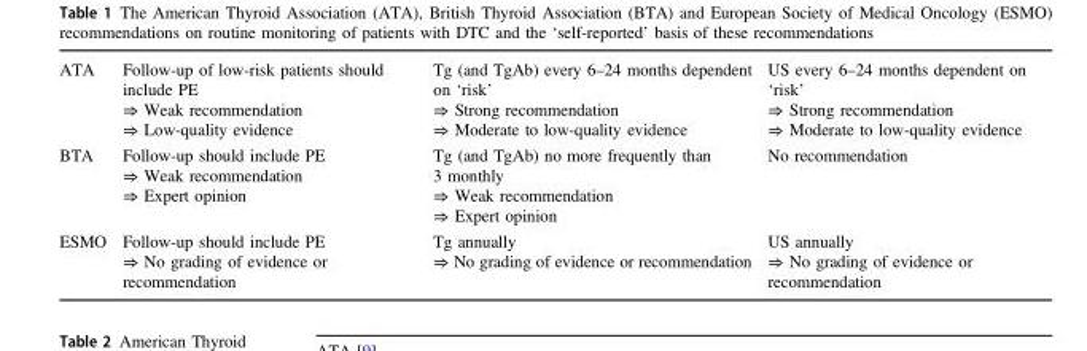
<table><tbody><tr><td>ATA</td><td>Follow-up of low-risk patients should include PE ⇒ Weak recommendation ⇒ Low-quality evidence</td><td>Tg (and TgAb) every 6–24 months dependent on ‘risk’ ⇒ Strong recommendation ⇒ Moderate to low-quality evidence</td><td>US every 6–24 months dependent on ‘risk’ ⇒ Strong recommendation ⇒ Moderate to low-quality evidence</td></tr><tr><td>BTA</td><td>Follow-up should include PE ⇒ Weak recommendation ⇒ Expert opinion</td><td>Tg (and TgAb) no more frequently than 3 monthly ⇒ Weak recommendation ⇒ Expert opinion</td><td>No recommendation</td></tr><tr><td>ESMO</td><td>Follow-up should include PE ⇒ No grading of evidence or recommendation</td><td>Tg annually ⇒ No grading of evidence or recommendation</td><td>US annually ⇒ No grading of evidence or recommendation</td></tr></tbody></table>